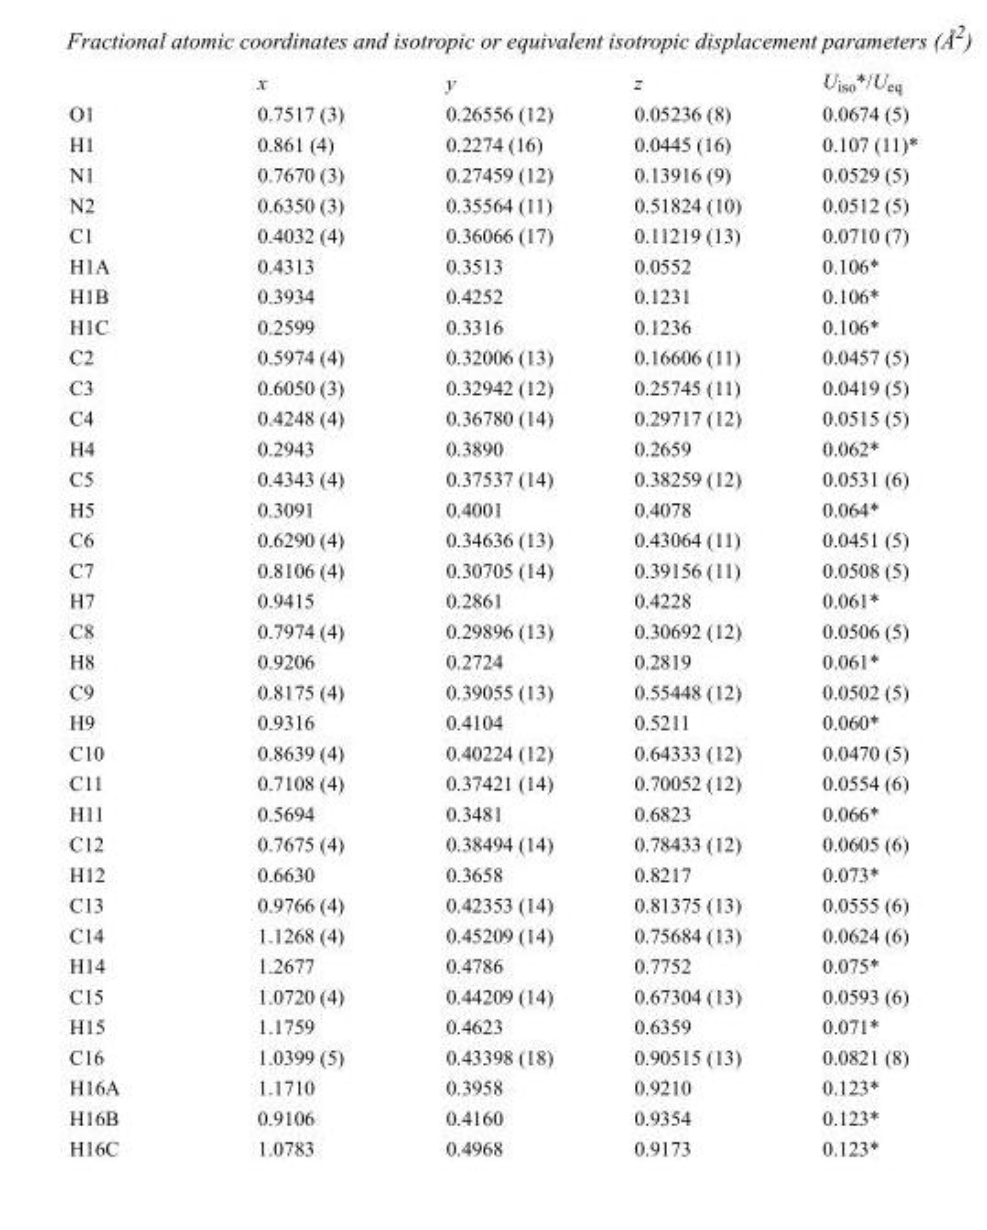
<table><thead><tr><td></td><td>x</td><td>y</td><td>z</td><td>U<sub>iso</sub>*/U<sub>eq</sub></td></tr></thead><tbody><tr><td>O1</td><td>0.7517 (3)</td><td>0.26556 (12)</td><td>0.05236 (8)</td><td>0.0674 (5)</td></tr><tr><td>H1</td><td>0.861 (4)</td><td>0.2274 (16)</td><td>0.0445 (16)</td><td>0.107 (11)*</td></tr><tr><td>N1</td><td>0.7670 (3)</td><td>0.27459 (12)</td><td>0.13916 (9)</td><td>0.0529 (5)</td></tr><tr><td>N2</td><td>0.6350 (3)</td><td>0.35564 (11)</td><td>0.51824 (10)</td><td>0.0512 (5)</td></tr><tr><td>C1</td><td>0.4032 (4)</td><td>0.36066 (17)</td><td>0.11219 (13)</td><td>0.0710 (7)</td></tr><tr><td>H1A</td><td>0.4313</td><td>0.3513</td><td>0.0552</td><td>0.106*</td></tr><tr><td>H1B</td><td>0.3934</td><td>0.4252</td><td>0.1231</td><td>0.106*</td></tr><tr><td>H1C</td><td>0.2599</td><td>0.3316</td><td>0.1236</td><td>0.106*</td></tr><tr><td>C2</td><td>0.5974 (4)</td><td>0.32006 (13)</td><td>0.16606 (11)</td><td>0.0457 (5)</td></tr><tr><td>C3</td><td>0.6050 (3)</td><td>0.32942 (12)</td><td>0.25745 (11)</td><td>0.0419 (5)</td></tr><tr><td>C4</td><td>0.4248 (4)</td><td>0.36780 (14)</td><td>0.29717 (12)</td><td>0.0515 (5)</td></tr><tr><td>H4</td><td>0.2943</td><td>0.3890</td><td>0.2659</td><td>0.062*</td></tr><tr><td>C5</td><td>0.4343 (4)</td><td>0.37537 (14)</td><td>0.38259 (12)</td><td>0.0531 (6)</td></tr><tr><td>H5</td><td>0.3091</td><td>0.4001</td><td>0.4078</td><td>0.064*</td></tr><tr><td>C6</td><td>0.6290 (4)</td><td>0.34636 (13)</td><td>0.43064 (11)</td><td>0.0451 (5)</td></tr><tr><td>C7</td><td>0.8106 (4)</td><td>0.30705 (14)</td><td>0.39156 (11)</td><td>0.0508 (5)</td></tr><tr><td>H7</td><td>0.9415</td><td>0.2861</td><td>0.4228</td><td>0.061*</td></tr><tr><td>C8</td><td>0.7974 (4)</td><td>0.29896 (13)</td><td>0.30692 (12)</td><td>0.0506 (5)</td></tr><tr><td>H8</td><td>0.9206</td><td>0.2724</td><td>0.2819</td><td>0.061*</td></tr><tr><td>C9</td><td>0.8175 (4)</td><td>0.39055 (13)</td><td>0.55448 (12)</td><td>0.0502 (5)</td></tr><tr><td>H9</td><td>0.9316</td><td>0.4104</td><td>0.5211</td><td>0.060*</td></tr><tr><td>C10</td><td>0.8639 (4)</td><td>0.40224 (12)</td><td>0.64333 (12)</td><td>0.0470 (5)</td></tr><tr><td>C11</td><td>0.7108 (4)</td><td>0.37421 (14)</td><td>0.70052 (12)</td><td>0.0554 (6)</td></tr><tr><td>H11</td><td>0.5694</td><td>0.3481</td><td>0.6823</td><td>0.066*</td></tr><tr><td>C12</td><td>0.7675 (4)</td><td>0.38494 (14)</td><td>0.78433 (12)</td><td>0.0605 (6)</td></tr><tr><td>H12</td><td>0.6630</td><td>0.3658</td><td>0.8217</td><td>0.073*</td></tr><tr><td>C13</td><td>0.9766 (4)</td><td>0.42353 (14)</td><td>0.81375 (13)</td><td>0.0555 (6)</td></tr><tr><td>C14</td><td>1.1268 (4)</td><td>0.45209 (14)</td><td>0.75684 (13)</td><td>0.0624 (6)</td></tr><tr><td>H14</td><td>1.2677</td><td>0.4786</td><td>0.7752</td><td>0.075*</td></tr><tr><td>C15</td><td>1.0720 (4)</td><td>0.44209 (14)</td><td>0.67304 (13)</td><td>0.0593 (6)</td></tr><tr><td>H15</td><td>1.1759</td><td>0.4623</td><td>0.6359</td><td>0.071*</td></tr><tr><td>C16</td><td>1.0399 (5)</td><td>0.43398 (18)</td><td>0.90515 (13)</td><td>0.0821 (8)</td></tr><tr><td>H16A</td><td>1.1710</td><td>0.3958</td><td>0.9210</td><td>0.123*</td></tr><tr><td>H16B</td><td>0.9106</td><td>0.4160</td><td>0.9354</td><td>0.123*</td></tr><tr><td>H16C</td><td>1.0783</td><td>0.4968</td><td>0.9173</td><td>0.123*</td></tr></tbody></table>